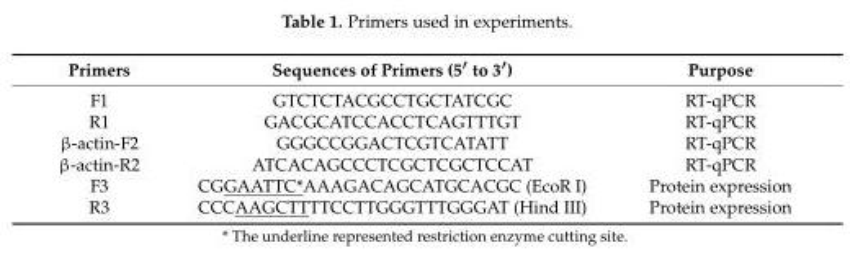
<table><thead><tr><td>Primers</td><td>Sequences of Primers (5′ to 3′)</td><td>Purpose</td></tr></thead><tbody><tr><td>F1</td><td>GTCTCTACGCCTGCTATCGC</td><td>RT-qPCR</td></tr><tr><td>R1</td><td>GACGCATCCACCTCAGTTTGT</td><td>RT-qPCR</td></tr><tr><td>β-actin-F2</td><td>GGGCCGGACTCGTCATATT</td><td>RT-qPCR</td></tr><tr><td>β-actin-R2</td><td>ATCACAGCCCTCGCTCGCTCCAT</td><td>RT-qPCR</td></tr><tr><td>F3</td><td>CGGAATTC*AAAGACAGCATGCACGC (EcoR I)</td><td>Protein expression</td></tr><tr><td>R3</td><td>CCCAAGCTTTTCCTTGGGTTTGGGAT (Hind III)</td><td>Protein expression</td></tr></tbody></table>